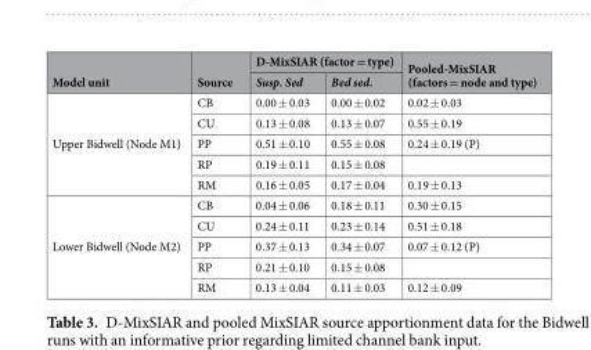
<table><thead><tr><td rowspan="2">Model unit</td><td rowspan="2">Source</td><td colspan="2">D-MixSIAR (factor = type)</td><td rowspan="2">Pooled-MixSIAR (factors = node and type)</td></tr><tr><td>Susp. Sed</td><td>Bed sed.</td></tr></thead><tbody><tr><td rowspan="5">Upper Bidwell (Node M1)</td><td>CB</td><td>0.00 ± 0.03</td><td>0.00 ± 0.02</td><td>0.02 ± 0.03</td></tr><tr><td>CU</td><td>0.13 ± 0.08</td><td>0.13 ± 0.07</td><td>0.55 ± 0.19</td></tr><tr><td>PP</td><td>0.51 ± 0.10</td><td>0.55 ± 0.08</td><td>0.24 ± 0.19 (P)</td></tr><tr><td>RP</td><td>0.19 ± 0.11</td><td>0.15 ± 0.08</td><td></td></tr><tr><td>RM</td><td>0.16 ± 0.05</td><td>0.17 ± 0.04</td><td>0.19 ± 0.13</td></tr><tr><td rowspan="5">Lower Bidwell (Node M2)</td><td>CB</td><td>0.04 ± 0.06</td><td>0.18 ± 0.11</td><td>0.30 ± 0.15</td></tr><tr><td>CU</td><td>0.24 ± 0.11</td><td>0.23 ± 0.14</td><td>0.51 ± 0.18</td></tr><tr><td>PP</td><td>0.37 ± 0.13</td><td>0.34 ± 0.07</td><td>0.07 ± 0.12 (P)</td></tr><tr><td>RP</td><td>0.21 ± 0.10</td><td>0.15 ± 0.08</td><td></td></tr><tr><td>RM</td><td>0.13 ± 0.04</td><td>0.11 ± 0.03</td><td>0.12 ± 0.09</td></tr></tbody></table>